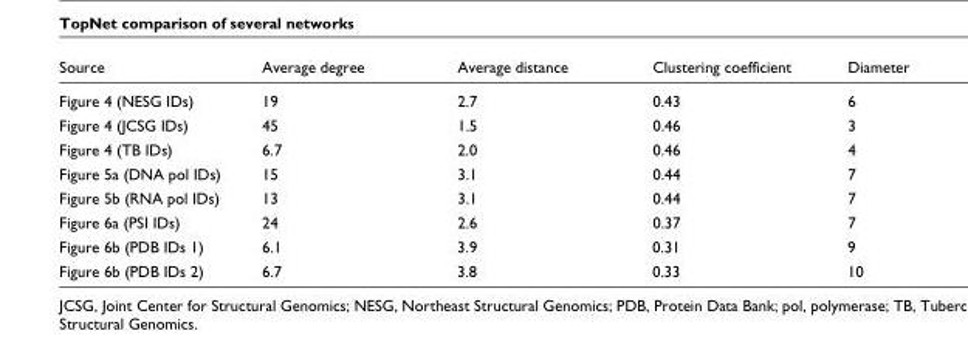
<table><thead><tr><td>Source</td><td>Average degree</td><td>Average distance</td><td>Clustering coefficient</td><td>Diameter</td></tr></thead><tbody><tr><td>Figure 4 (NESG IDs)</td><td>19</td><td>2.7</td><td>0.43</td><td>6</td></tr><tr><td>Figure 4 (JCSG IDs)</td><td>45</td><td>1.5</td><td>0.46</td><td>3</td></tr><tr><td>Figure 4 (TB IDs)</td><td>6.7</td><td>2.0</td><td>0.46</td><td>4</td></tr><tr><td>Figure 5a (DNA pol IDs)</td><td>15</td><td>3.1</td><td>0.44</td><td>7</td></tr><tr><td>Figure 5b (RNA pol IDs)</td><td>13</td><td>3.1</td><td>0.44</td><td>7</td></tr><tr><td>Figure 6a (PSI IDs)</td><td>24</td><td>2.6</td><td>0.37</td><td>7</td></tr><tr><td>Figure 6b (PDB IDs 1)</td><td>6.1</td><td>3.9</td><td>0.31</td><td>9</td></tr><tr><td>Figure 6b (PDB IDs 2)</td><td>6.7</td><td>3.8</td><td>0.33</td><td>10</td></tr></tbody></table>